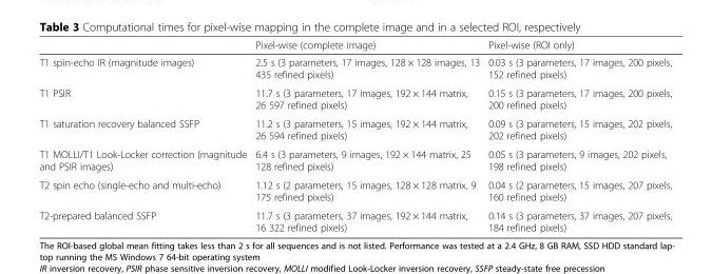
<table><thead><tr><td></td><td>Pixel-wise (complete image)</td><td>Pixel-wise (ROI only)</td></tr></thead><tbody><tr><td>T1 spin-echo IR (magnitude images)</td><td>2.5 s (3 parameters, 17 images, 128 × 128 images, 13 435 refined pixels)</td><td>0.03 s (3 parameters, 17 images, 200 pixels, 152 refined pixels)</td></tr><tr><td>T1 PSIR</td><td>11.7 s (3 parameters, 17 images, 192 × 144 matrix, 26 597 refined pixels)</td><td>0.15 s (3 parameters, 17 images, 200 pixels, 200 refined pixels)</td></tr><tr><td>T1 saturation recovery balanced SSFP</td><td>11.2 s (3 parameters, 15 images, 192 × 144 matrix, 26 594 refined pixels)</td><td>0.09 s (3 parameters, 15 images, 202 pixels, 202 refined pixels)</td></tr><tr><td>T1 MOLLI/T1 Look-Locker correction (magnitude and PSIR images)</td><td>6.4 s (3 parameters, 9 images, 192 × 144 matrix, 25 128 refined pixels)</td><td>0.05 s (3 parameters, 9 images, 202 pixels, 198 refined pixels)</td></tr><tr><td>T2 spin echo (single-echo and multi-echo)</td><td>1.12 s (2 parameters, 15 images, 128 × 128 matrix, 9 175 refined pixels)</td><td>0.04 s (2 parameters, 15 images, 207 pixels, 160 refined pixels)</td></tr><tr><td>T2-prepared balanced SSFP</td><td>11.7 s (3 parameters, 37 images, 192 × 144 matrix, 16 322 refined pixels)</td><td>0.14 s (3 parameters, 37 images, 207 pixels, 184 refined pixels)</td></tr></tbody></table>